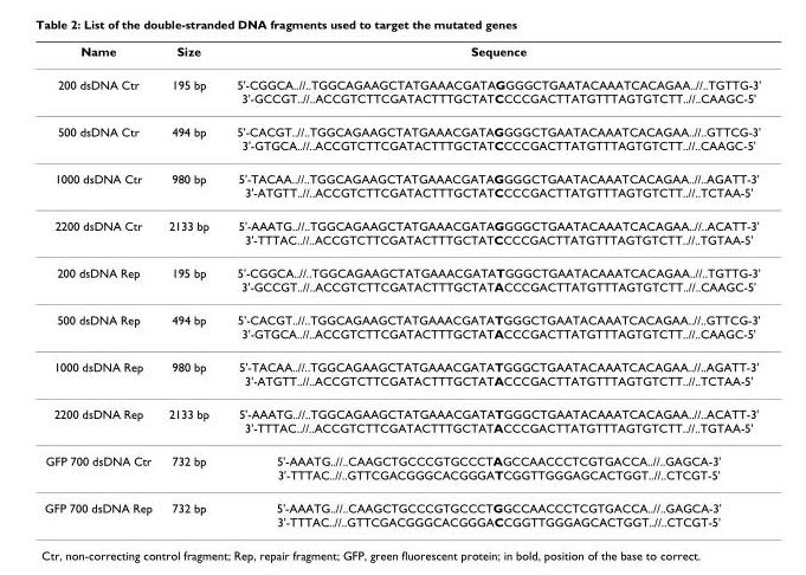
<table><thead><tr><td>Name</td><td>Size</td><td>Sequence</td></tr></thead><tbody><tr><td>200 dsDNA Ctr</td><td>195 bp</td><td>5&#x27;-CGGCA..//..TGGCAGAAGCTATGAAACGATAGGGGCTGAATACAAATCACAGAA..//..TGTTG-3&#x27; 3&#x27;-GCCGT..//..ACCGTCTTCGATACTTTGCTATCCCCGACTTATGTTTAGTGTCTT..//..CAAGC-5&#x27;</td></tr><tr><td>500 dsDNA Ctr</td><td>494 bp</td><td>5&#x27;-CACGT..//..TGGCAGAAGCTATGAAACGATAGGGGCTGAATACAAATCACAGAA..//..GTTCG-3&#x27; 3&#x27;-GTGCA..//..ACCGTCTTCGATACTTTGCTATCCCCGACTTATGTTTAGTGTCTT..//..CAAGC-5&#x27;</td></tr><tr><td>1000 dsDNA Ctr</td><td>980 bp</td><td>5&#x27;-TACAA..//..TGGCAGAAGCTATGAAACGATAGGGGCTGAATACAAATCACAGAA..//..AGATT-3&#x27; 3&#x27;-ATGTT..//..ACCGTCTTCGATACTTTGCTATCCCCGACTTATGTTTAGTGTCTT..//..TCTAA-5&#x27;</td></tr><tr><td>2200 dsDNA Ctr</td><td>2133 bp</td><td>5&#x27;-AAATG..//..TGGCAGAAGCTATGAAACGATAGGGGCTGAATACAAATCACAGAA..//..ACATT-3&#x27; 3&#x27;-TTTAC..//..ACCGTCTTCGATACTTTGCTATCCCCGACTTATGTTTAGTGTCTT..//..TGTAA-5&#x27;</td></tr><tr><td>200 dsDNA Rep</td><td>195 bp</td><td>5&#x27;-CGGCA..//..TGGCAGAAGCTATGAAACGATATGGGCTGAATACAAATCACAGAA..//..TGTTG-3&#x27; 3&#x27;-GCCGT..//..ACCGTCTTCGATACTTTGCTATACCCGACTTATGTTTAGTGTCTT..//..CAAGC-5&#x27;</td></tr><tr><td>500 dsDNA Rep</td><td>494 bp</td><td>5&#x27;-CACGT..//..TGGCAGAAGCTATGAAACGATATGGGCTGAATACAAATCACAGAA..//..GTTCG-3&#x27; 3&#x27;-GTGCA..//..ACCGTCTTCGATACTTTGCTATACCCGACTTATGTTTAGTGTCTT..//..CAAGC-5&#x27;</td></tr><tr><td>1000 dsDNA Rep</td><td>980 bp</td><td>5&#x27;-TACAA..//..TGGCAGAAGCTATGAAACGATATGGGCTGAATACAAATCACAGAA..//..AGATT-3&#x27; 3&#x27;-ATGTT..//..ACCGTCTTCGATACTTTGCTATACCCGACTTATGTTTAGTGTCTT..//..TCTAA-5&#x27;</td></tr><tr><td>2200 dsDNA Rep</td><td>2133 bp</td><td>5&#x27;-AAATG..//..TGGCAGAAGCTATGAAACGATATGGGCTGAATACAAATCACAGAA..//..ACATT-3&#x27; 3&#x27;-TTTAC..//..ACCGTCTTCGATACTTTGCTATACCCGACTTATGTTTAGTGTCTT..//..TGTAA-5&#x27;</td></tr><tr><td>GFP 700 dsDNA Ctr</td><td>732 bp</td><td>5&#x27;-AAATG..//..CAAGCTGCCCGTGCCCTAGCCAACCCTCGTGACCA..//..GAGCA-3&#x27; 3&#x27;-TTTAC..//..GTTCGACGGGCACGGGATCGGTTGGGAGCACTGGT..//..CTCGT-5&#x27;</td></tr><tr><td>GFP 700 dsDNA Rep</td><td>732 bp</td><td>5&#x27;-AAATG..//..CAAGCTGCCCGTGCCCTGGCCAACCCTCGTGACCA..//..GAGCA-3&#x27; 3&#x27;-TTTAC..//..GTTCGACGGGCACGGGACCGGTTGGGAGCACTGGT..//..CTCGT-5&#x27;</td></tr></tbody></table>